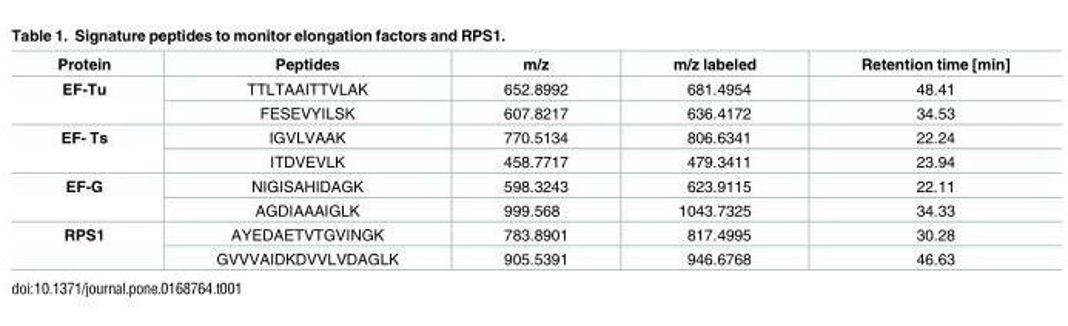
<table><thead><tr><td>Protein</td><td>Peptides</td><td>m/z</td><td>m/z labeled</td><td>Retention time [min]</td></tr></thead><tbody><tr><td rowspan="2">EF-Tu</td><td>TTLTAAITTVLAK</td><td>652.8992</td><td>681.4954</td><td>48.41</td></tr><tr><td>FESEVYILSK</td><td>607.8217</td><td>636.4172</td><td>34.53</td></tr><tr><td rowspan="2">EF- Ts</td><td>IGVLVAAK</td><td>770.5134</td><td>806.6341</td><td>22.24</td></tr><tr><td>ITDVEVLK</td><td>458.7717</td><td>479.3411</td><td>23.94</td></tr><tr><td rowspan="2">EF-G</td><td>NIGISAHIDAGK</td><td>598.3243</td><td>623.9115</td><td>22.11</td></tr><tr><td>AGDIAAAIGLK</td><td>999.568</td><td>1043.7325</td><td>34.33</td></tr><tr><td rowspan="2">RPS1</td><td>AYEDAETVTGVINGK</td><td>783.8901</td><td>817.4995</td><td>30.28</td></tr><tr><td>GVVVAIDKDVVLVDAGLK</td><td>905.5391</td><td>946.6768</td><td>46.63</td></tr></tbody></table>